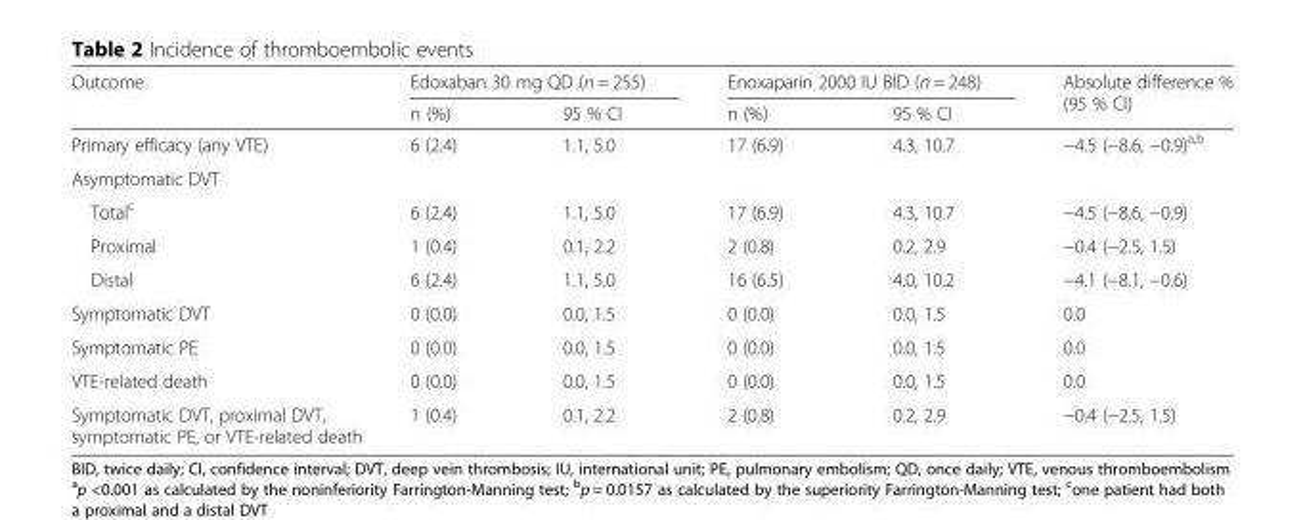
<table><thead><tr><td rowspan="2">Outcome</td><td colspan="2">Edoxaban 30 mg QD (n = 255)</td><td colspan="2">Enoxaparin 2000 IU BID (n = 248)</td><td rowspan="2">Absolute difference % (95 % CI)</td></tr><tr><td>n (%)</td><td>95 % CI</td><td>n (%)</td><td>95 % CI</td></tr></thead><tbody><tr><td>Primary efficacy (any VTE)</td><td>6 (2.4)</td><td>1.1, 5.0</td><td>17 (6.9)</td><td>4.3, 10.7</td><td>−4.5 (−8.6, −0.9)<sup>a,b</sup></td></tr><tr><td colspan="6">Asymptomatic DVT</td></tr><tr><td>Total<sup>c</sup></td><td>6 (2.4)</td><td>1.1, 5.0</td><td>17 (6.9)</td><td>4.3, 10.7</td><td>−4.5 (−8.6, −0.9)</td></tr><tr><td>Proximal</td><td>1 (0.4)</td><td>0.1, 2.2</td><td>2 (0.8)</td><td>0.2, 2.9</td><td>−0.4 (−2.5, 1.5)</td></tr><tr><td>Distal</td><td>6 (2.4)</td><td>1.1, 5.0</td><td>16 (6.5)</td><td>4.0, 10.2</td><td>−4.1 (−8.1, −0.6)</td></tr><tr><td>Symptomatic DVT</td><td>0 (0.0)</td><td>0.0, 1.5</td><td>0 (0.0)</td><td>0.0, 1.5</td><td>0.0</td></tr><tr><td>Symptomatic PE</td><td>0 (0.0)</td><td>0.0, 1.5</td><td>0 (0.0)</td><td>0.0, 1.5</td><td>0.0</td></tr><tr><td>VTE-related death</td><td>0 (0.0)</td><td>0.0, 1.5</td><td>0 (0.0)</td><td>0.0, 1.5</td><td>0.0</td></tr><tr><td>Symptomatic DVT, proximal DVT, symptomatic PE, or VTE-related death</td><td>1 (0.4)</td><td>0.1, 2.2</td><td>2 (0.8)</td><td>0.2, 2.9</td><td>−0.4 (−2.5, 1.5)</td></tr></tbody></table>